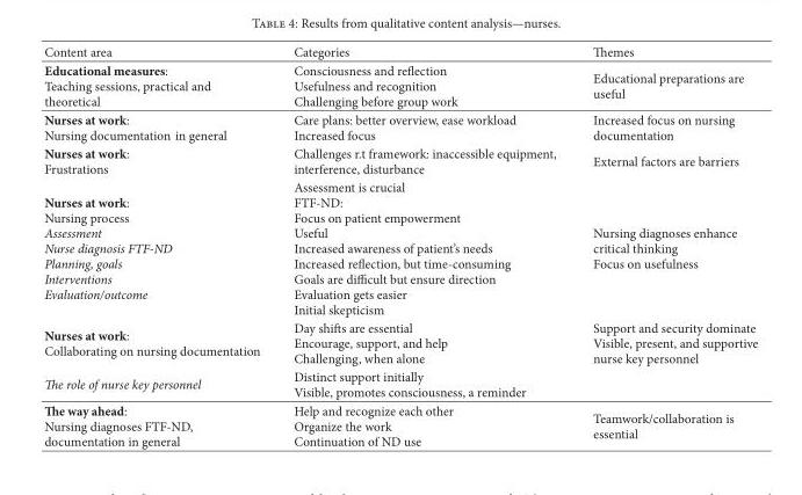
<table><thead><tr><td>Content area</td><td>Categories</td><td>Themes</td></tr></thead><tbody><tr><td>Educational measures: Teaching sessions, practical and theoretical</td><td>Consciousness and reflection Usefulness and recognition Challenging before group work</td><td>Educational preparations are useful</td></tr><tr><td>Nurses at work: Nursing documentation in general</td><td>Care plans: better overview, ease workload Increased focus</td><td>Increased focus on nursing documentation</td></tr><tr><td>Nurses at work: Frustrations</td><td>Challenges r.t framework: inaccessible equipment, interference, disturbance</td><td>External factors are barriers</td></tr><tr><td>Nurses at work: Nursing process Assessment Nurse diagnosis FTF-ND Planning, goals Interventions Evaluation/outcome</td><td>Assessment is crucial FTF-ND: Focus on patient empowerment Useful Increased awareness of patient’s needs Increased reflection, but time-consuming Goals are difficult but ensure direction Evaluation gets easier Initial skepticism</td><td>Nursing diagnoses enhance critical thinking Focus on usefulness</td></tr><tr><td>Nurses at work: Collaborating on nursing documentation</td><td>Day shifts are essential Encourage, support, and help Challenging, when alone</td><td>Support and security dominate Visible, present, and supportive nurse key personnel</td></tr><tr><td>The role of nurse key personnel</td><td>Distinct support initially Visible, promotes consciousness, a reminder</td><td></td></tr><tr><td>The way ahead: Nursing diagnoses FTF-ND, documentation in general</td><td>Help and recognize each other Organize the work Continuation of ND use</td><td>Teamwork/collaboration is essential</td></tr></tbody></table>